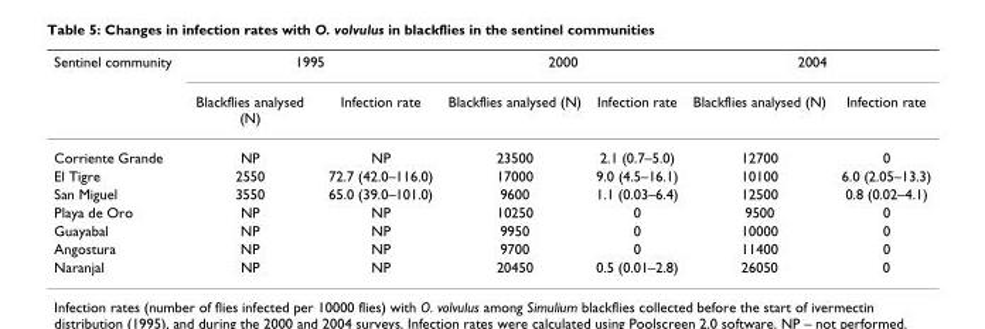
<table><thead><tr><td rowspan="2">Sentinel community</td><td colspan="2">1995</td><td colspan="2">2000</td><td colspan="2">2004</td></tr><tr><td>Blackflies analysed (N)</td><td>Infection rate</td><td>Blackflies analysed (N)</td><td>Infection rate</td><td>Blackflies analysed (N)</td><td>Infection rate</td></tr></thead><tbody><tr><td>Corriente Grande</td><td>NP</td><td>NP</td><td>23500</td><td>2.1 (0.7–5.0)</td><td>12700</td><td>0</td></tr><tr><td>El Tigre</td><td>2550</td><td>72.7 (42.0–116.0)</td><td>17000</td><td>9.0 (4.5–16.1)</td><td>10100</td><td>6.0 (2.05–13.3)</td></tr><tr><td>San Miguel</td><td>3550</td><td>65.0 (39.0–101.0)</td><td>9600</td><td>1.1 (0.03–6.4)</td><td>12500</td><td>0.8 (0.02–4.1)</td></tr><tr><td>Playa de Oro</td><td>NP</td><td>NP</td><td>10250</td><td>0</td><td>9500</td><td>0</td></tr><tr><td>Guayabal</td><td>NP</td><td>NP</td><td>9950</td><td>0</td><td>10000</td><td>0</td></tr><tr><td>Angostura</td><td>NP</td><td>NP</td><td>9700</td><td>0</td><td>11400</td><td>0</td></tr><tr><td>Naranjal</td><td>NP</td><td>NP</td><td>20450</td><td>0.5 (0.01–2.8)</td><td>26050</td><td>0</td></tr></tbody></table>